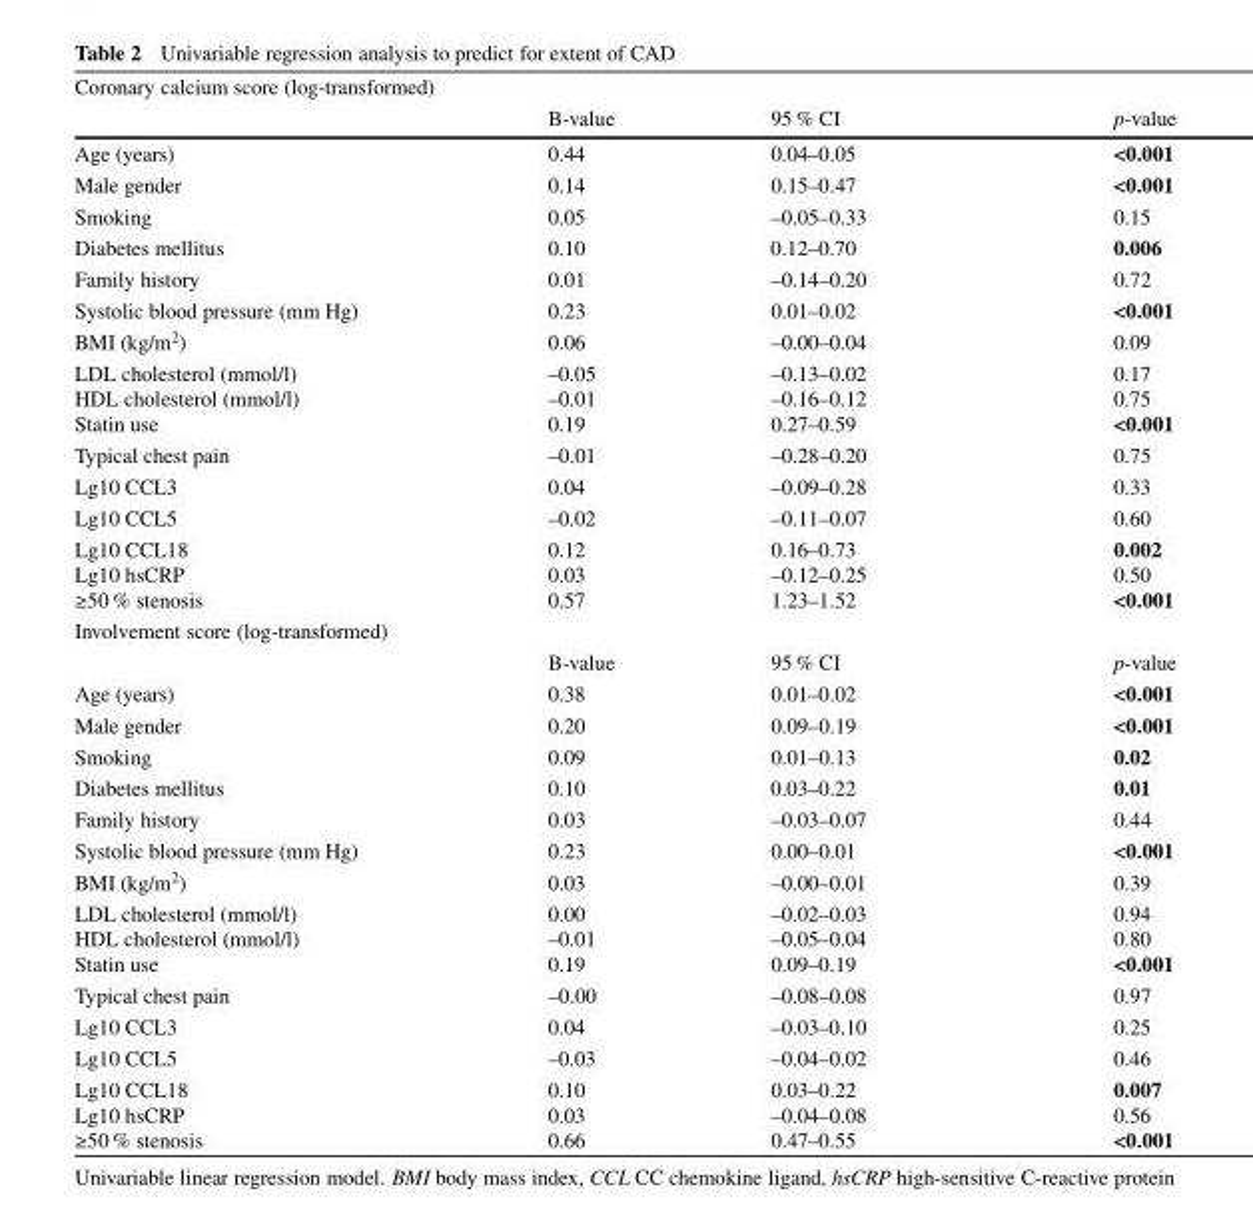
<table><thead><tr><td colspan="4">Coronary calcium score (log-transformed)</td></tr><tr><td></td><td>B-value</td><td>95 % CI</td><td>p-value</td></tr></thead><tbody><tr><td>Age (years)</td><td>0.44</td><td>0.04–0.05</td><td>&lt;0.001</td></tr><tr><td>Male gender</td><td>0.14</td><td>0.15–0.47</td><td>&lt;0.001</td></tr><tr><td>Smoking</td><td>0.05</td><td>–0.05–0.33</td><td>0.15</td></tr><tr><td>Diabetes mellitus</td><td>0.10</td><td>0.12–0.70</td><td>0.006</td></tr><tr><td>Family history</td><td>0.01</td><td>–0.14–0.20</td><td>0.72</td></tr><tr><td>Systolic blood pressure (mm Hg)</td><td>0.23</td><td>0.01–0.02</td><td>&lt;0.001</td></tr><tr><td>BMI (kg/m<sup>2</sup>)</td><td>0.06</td><td>–0.00–0.04</td><td>0.09</td></tr><tr><td>LDL cholesterol (mmol/l) HDL cholesterol (mmol/l) Statin use</td><td>–0.05 –0.01 0.19</td><td>–0.13–0.02 –0.16–0.12 0.27–0.59</td><td>0.17 0.75 &lt;0.001</td></tr><tr><td>Typical chest pain</td><td>–0.01</td><td>–0.28–0.20</td><td>0.75</td></tr><tr><td>Lg10 CCL3</td><td>0.04</td><td>–0.09–0.28</td><td>0.33</td></tr><tr><td>Lg10 CCL5</td><td>–0.02</td><td>–0.11–0.07</td><td>0.60</td></tr><tr><td>Lg10 CCL18 Lg10 hsCRP ≥50 % stenosis</td><td>0.12 0.03 0.57</td><td>0.16–0.73 –0.12–0.25 1.23–1.52</td><td>0.002 0.50 &lt;0.001</td></tr><tr><td colspan="4">Involvement score (log-transformed)</td></tr><tr><td></td><td>B-value</td><td>95 % CI</td><td>p-value</td></tr><tr><td>Age (years)</td><td>0.38</td><td>0.01–0.02</td><td>&lt;0.001</td></tr><tr><td>Male gender</td><td>0.20</td><td>0.09–0.19</td><td>&lt;0.001</td></tr><tr><td>Smoking</td><td>0.09</td><td>0.01–0.13</td><td>0.02</td></tr><tr><td>Diabetes mellitus</td><td>0.10</td><td>0.03–0.22</td><td>0.01</td></tr><tr><td>Family history</td><td>0.03</td><td>–0.03–0.07</td><td>0.44</td></tr><tr><td>Systolic blood pressure (mm Hg)</td><td>0.23</td><td>0.00–0.01</td><td>&lt;0.001</td></tr><tr><td>BMI (kg/m<sup>2</sup>)</td><td>0.03</td><td>–0.00–0.01</td><td>0.39</td></tr><tr><td>LDL cholesterol (mmol/l) HDL cholesterol (mmol/l) Statin use</td><td>0.00 –0.01 0.19</td><td>–0.02–0.03 –0.05–0.04 0.09–0.19</td><td>0.94 0.80 &lt;0.001</td></tr><tr><td>Typical chest pain</td><td>–0.00</td><td>–0.08–0.08</td><td>0.97</td></tr><tr><td>Lg10 CCL3</td><td>0.04</td><td>–0.03–0.10</td><td>0.25</td></tr><tr><td>Lg10 CCL5</td><td>–0.03</td><td>–0.04–0.02</td><td>0.46</td></tr><tr><td>Lg10 CCL18 Lg10 hsCRP ≥50 % stenosis</td><td>0.10 0.03 0.66</td><td>0.03–0.22 –0.04–0.08 0.47–0.55</td><td>0.007 0.56 &lt;0.001</td></tr></tbody></table>